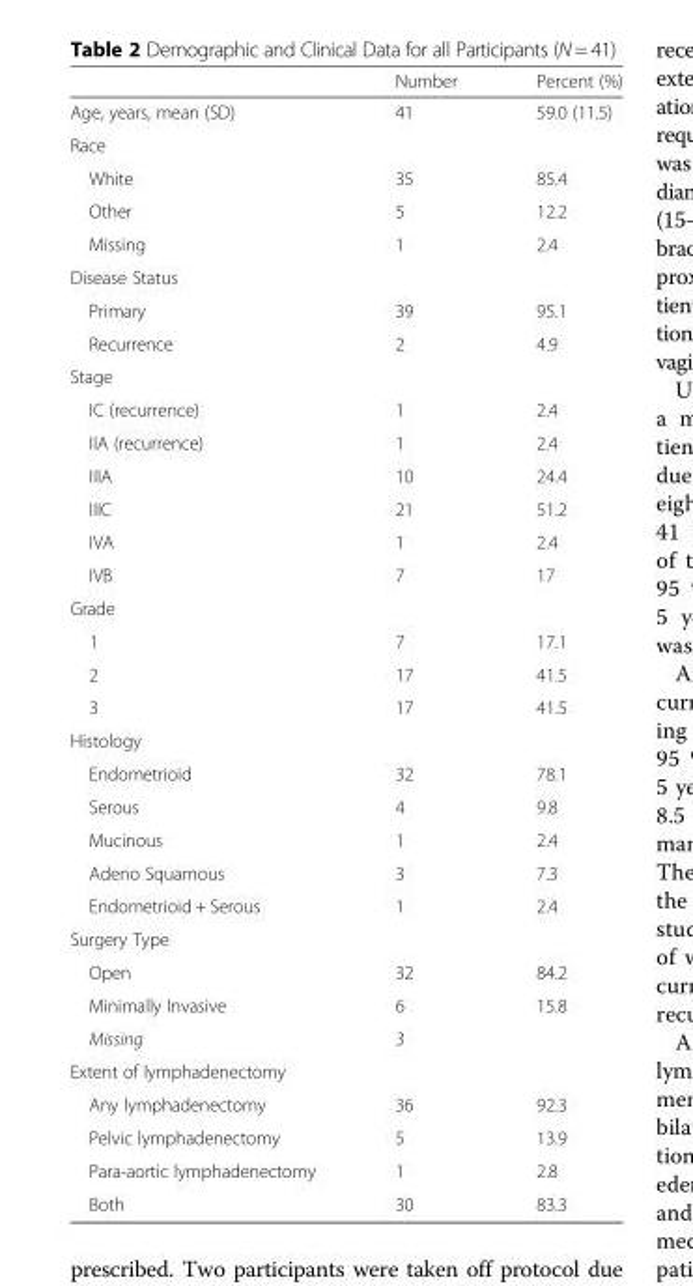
<table><thead><tr><td></td><td>Number</td><td>Percent (%)</td></tr></thead><tbody><tr><td>Age, years, mean (SD)</td><td>41</td><td>59.0 (11.5)</td></tr><tr><td colspan="3">Race</td></tr><tr><td>White</td><td>35</td><td>85.4</td></tr><tr><td>Other</td><td>5</td><td>12.2</td></tr><tr><td>Missing</td><td>1</td><td>2.4</td></tr><tr><td colspan="3">Disease Status</td></tr><tr><td>Primary</td><td>39</td><td>95.1</td></tr><tr><td>Recurrence</td><td>2</td><td>4.9</td></tr><tr><td colspan="3">Stage</td></tr><tr><td>IC (recurrence)</td><td>1</td><td>2.4</td></tr><tr><td>IIA (recurrence)</td><td>1</td><td>2.4</td></tr><tr><td>IIIA</td><td>10</td><td>24.4</td></tr><tr><td>IIIC</td><td>21</td><td>51.2</td></tr><tr><td>IVA</td><td>1</td><td>2.4</td></tr><tr><td>IVB</td><td>7</td><td>17</td></tr><tr><td colspan="3">Grade</td></tr><tr><td>1</td><td>7</td><td>17.1</td></tr><tr><td>2</td><td>17</td><td>41.5</td></tr><tr><td>3</td><td>17</td><td>41.5</td></tr><tr><td colspan="3">Histology</td></tr><tr><td>Endometrioid</td><td>32</td><td>78.1</td></tr><tr><td>Serous</td><td>4</td><td>9.8</td></tr><tr><td>Mucinous</td><td>1</td><td>2.4</td></tr><tr><td>Adeno Squamous</td><td>3</td><td>7.3</td></tr><tr><td>Endometrioid + Serous</td><td>1</td><td>2.4</td></tr><tr><td colspan="3">Surgery Type</td></tr><tr><td>Open</td><td>32</td><td>84.2</td></tr><tr><td>Minimally Invasive</td><td>6</td><td>15.8</td></tr><tr><td>Missing</td><td>3</td><td></td></tr><tr><td colspan="3">Extent of lymphadenectomy</td></tr><tr><td>Any lymphadenectomy</td><td>36</td><td>92.3</td></tr><tr><td>Pelvic lymphadenectomy</td><td>5</td><td>13.9</td></tr><tr><td>Para-aortic lymphadenectomy</td><td>1</td><td>2.8</td></tr><tr><td>Both</td><td>30</td><td>83.3</td></tr></tbody></table>